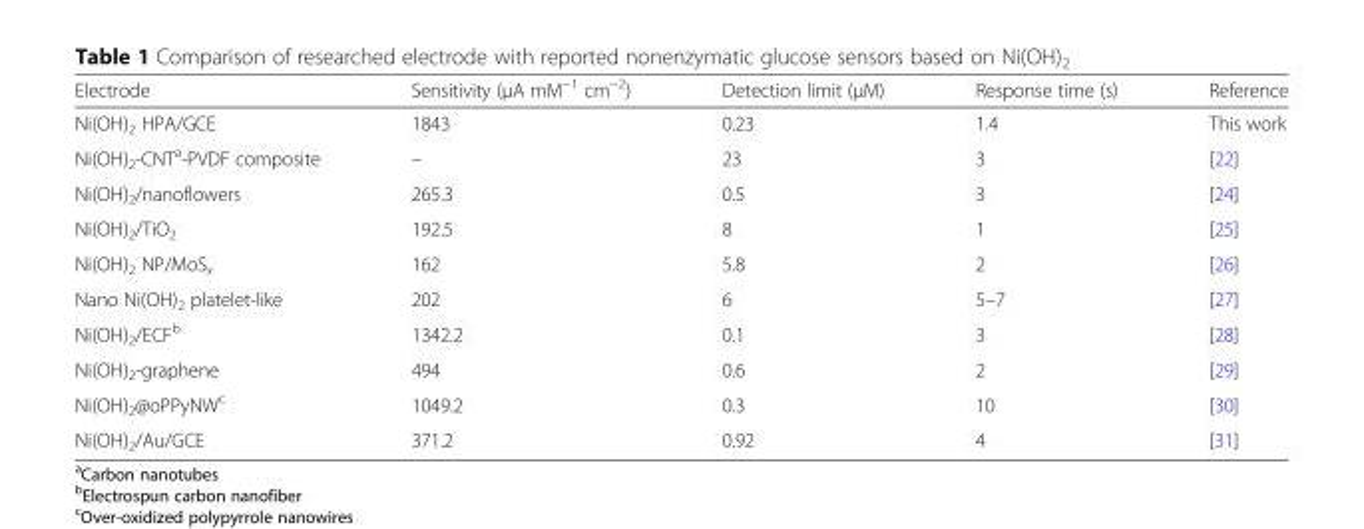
<table><thead><tr><td>Electrode</td><td>Sensitivity (μA mM<sup>−1</sup> cm<sup>−2</sup>)</td><td>Detection limit (μM)</td><td>Response time (s)</td><td>Reference</td></tr></thead><tbody><tr><td>Ni(OH)<sub>2</sub> HPA/GCE</td><td>1843</td><td>0.23</td><td>1.4</td><td>This work</td></tr><tr><td>Ni(OH)<sub>2</sub>-CNT<sup>a</sup>-PVDF composite</td><td>–</td><td>23</td><td>3</td><td>[22]</td></tr><tr><td>Ni(OH)<sub>2</sub>/nanoflowers</td><td>265.3</td><td>0.5</td><td>3</td><td>[24]</td></tr><tr><td>Ni(OH)<sub>2</sub>/TiO<sub>2</sub></td><td>192.5</td><td>8</td><td>1</td><td>[25]</td></tr><tr><td>Ni(OH)<sub>2</sub> NP/MoS<sub>x</sub></td><td>162</td><td>5.8</td><td>2</td><td>[26]</td></tr><tr><td>Nano Ni(OH)<sub>2</sub> platelet-like</td><td>202</td><td>6</td><td>5–7</td><td>[27]</td></tr><tr><td>Ni(OH)<sub>2</sub>/ECF<sup>b</sup></td><td>1342.2</td><td>0.1</td><td>3</td><td>[28]</td></tr><tr><td>Ni(OH)<sub>2</sub>-graphene</td><td>494</td><td>0.6</td><td>2</td><td>[29]</td></tr><tr><td>Ni(OH)<sub>2</sub>@oPPyNW<sup>c</sup></td><td>1049.2</td><td>0.3</td><td>10</td><td>[30]</td></tr><tr><td>Ni(OH)<sub>2</sub>/Au/GCE</td><td>371.2</td><td>0.92</td><td>4</td><td>[31]</td></tr></tbody></table>